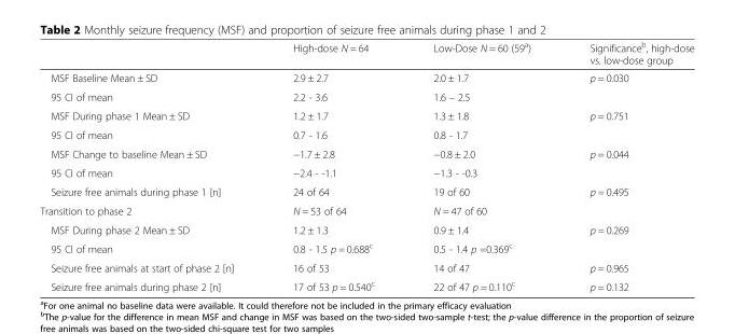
<table><thead><tr><td></td><td>High-dose N = 64</td><td>Low-Dose N = 60 (59<sup>a</sup>)</td><td>Significance<sup>b</sup>, high-dose vs. low-dose group</td></tr></thead><tbody><tr><td>MSF Baseline Mean ± SD</td><td>2.9 ± 2.7</td><td>2.0 ± 1.7</td><td rowspan="2">p = 0.030</td></tr><tr><td>95 CI of mean</td><td>2.2 - 3.6</td><td>1.6 – 2.5</td></tr><tr><td>MSF During phase 1 Mean ± SD</td><td>1.2 ± 1.7</td><td>1.3 ± 1.8</td><td rowspan="2">p = 0.751</td></tr><tr><td>95 CI of mean</td><td>0.7 - 1.6</td><td>0.8 - 1.7</td></tr><tr><td>MSF Change to baseline Mean ± SD</td><td>−1.7 ± 2.8</td><td>−0.8 ± 2.0</td><td rowspan="2">p = 0.044</td></tr><tr><td>95 CI of mean</td><td>−2.4 - -1.1</td><td>−1.3 - -0.3</td></tr><tr><td>Seizure free animals during phase 1 [n]</td><td>24 of 64</td><td>19 of 60</td><td>p = 0.495</td></tr><tr><td>Transition to phase 2</td><td>N = 53 of 64</td><td>N = 47 of 60</td><td></td></tr><tr><td>MSF During phase 2 Mean ± SD</td><td>1.2 ± 1.3</td><td>0.9 ± 1.4</td><td rowspan="2">p = 0.269</td></tr><tr><td>95 CI of mean</td><td>0.8 - 1.5 p = 0.688<sup>c</sup></td><td>0.5 - 1.4 p =0.369<sup>c</sup></td></tr><tr><td>Seizure free animals at start of phase 2 [n]</td><td>16 of 53</td><td>14 of 47</td><td>p = 0.965</td></tr><tr><td>Seizure free animals during phase 2 [n]</td><td>17 of 53 p = 0.540<sup>c</sup></td><td>22 of 47 p = 0.110<sup>c</sup></td><td>p = 0.132</td></tr></tbody></table>